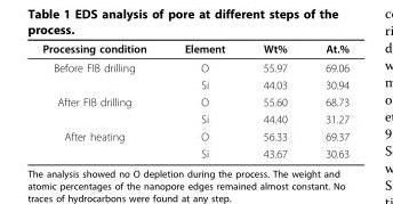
<table><thead><tr><td>Processing condition</td><td>Element</td><td>Wt%</td><td>At.%</td></tr></thead><tbody><tr><td rowspan="2">Before FIB drilling</td><td>O</td><td>55.97</td><td>69.06</td></tr><tr><td>Si</td><td>44.03</td><td>30.94</td></tr><tr><td rowspan="2">After FIB drilling</td><td>O</td><td>55.60</td><td>68.73</td></tr><tr><td>Si</td><td>44.40</td><td>31.27</td></tr><tr><td rowspan="2">After heating</td><td>O</td><td>56.33</td><td>69.37</td></tr><tr><td>Si</td><td>43.67</td><td>30.63</td></tr></tbody></table>